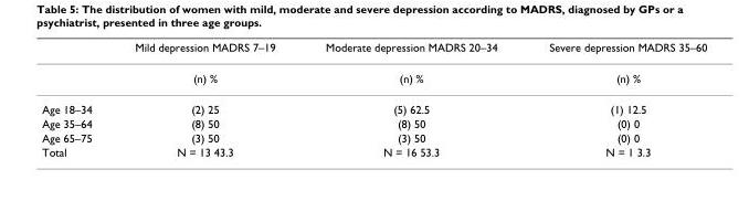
<table><thead><tr><td></td><td>Mild depression MADRS 7–19</td><td>Moderate depression MADRS 20–34</td><td>Severe depression MADRS 35–60</td></tr></thead><tbody><tr><td></td><td>(n) %</td><td>(n) %</td><td>(n) %</td></tr><tr><td>Age 18–34</td><td>(2) 25</td><td>(5) 62.5</td><td>(1) 12.5</td></tr><tr><td>Age 35–64</td><td>(8) 50</td><td>(8) 50</td><td>(0) 0</td></tr><tr><td>Age 65–75</td><td>(3) 50</td><td>(3) 50</td><td>(0) 0</td></tr><tr><td>Total</td><td>N = 13 43.3</td><td>N = 16 53.3</td><td>N = 1 3.3</td></tr></tbody></table>